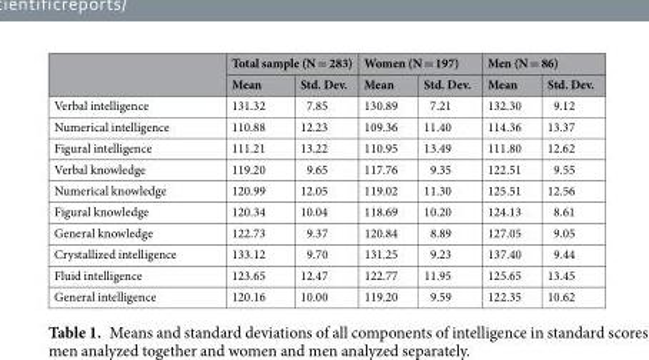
<table><thead><tr><td rowspan="2"></td><td colspan="2">Total sample (N = 283)</td><td colspan="2">Women (N = 197)</td><td colspan="2">Men (N = 86)</td></tr><tr><td>Mean</td><td>Std. Dev.</td><td>Mean</td><td>Std. Dev.</td><td>Mean</td><td>Std. Dev.</td></tr></thead><tbody><tr><td>Verbal intelligence</td><td>131.32</td><td>7.85</td><td>130.89</td><td>7.21</td><td>132.30</td><td>9.12</td></tr><tr><td>Numerical intelligence</td><td>110.88</td><td>12.23</td><td>109.36</td><td>11.40</td><td>114.36</td><td>13.37</td></tr><tr><td>Figural intelligence</td><td>111.21</td><td>13.22</td><td>110.95</td><td>13.49</td><td>111.80</td><td>12.62</td></tr><tr><td>Verbal knowledge</td><td>119.20</td><td>9.65</td><td>117.76</td><td>9.35</td><td>122.51</td><td>9.55</td></tr><tr><td>Numerical knowledge</td><td>120.99</td><td>12.05</td><td>119.02</td><td>11.30</td><td>125.51</td><td>12.56</td></tr><tr><td>Figural knowledge</td><td>120.34</td><td>10.04</td><td>118.69</td><td>10.20</td><td>124.13</td><td>8.61</td></tr><tr><td>General knowledge</td><td>122.73</td><td>9.37</td><td>120.84</td><td>8.89</td><td>127.05</td><td>9.05</td></tr><tr><td>Crystallized intelligence</td><td>133.12</td><td>9.70</td><td>131.25</td><td>9.23</td><td>137.40</td><td>9.44</td></tr><tr><td>Fluid intelligence</td><td>123.65</td><td>12.47</td><td>122.77</td><td>11.95</td><td>125.65</td><td>13.45</td></tr><tr><td>General intelligence</td><td>120.16</td><td>10.00</td><td>119.20</td><td>9.59</td><td>122.35</td><td>10.62</td></tr></tbody></table>